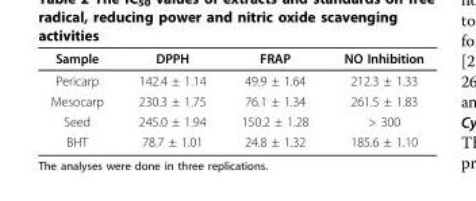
<table><thead><tr><td>Sample</td><td>DPPH</td><td>FRAP</td><td>NO Inhibition</td></tr></thead><tbody><tr><td>Pericarp</td><td>142.4 ± 1.14</td><td>49.9 ± 1.64</td><td>212.3 ± 1.33</td></tr><tr><td>Mesocarp</td><td>230.3 ± 1.75</td><td>76.1 ± 1.34</td><td>261.5 ± 1.83</td></tr><tr><td>Seed</td><td>245.0 ± 1.94</td><td>150.2 ± 1.28</td><td>&gt; 300</td></tr><tr><td>BHT</td><td>78.7 ± 1.01</td><td>24.8 ± 1.32</td><td>185.6 ± 1.10</td></tr></tbody></table>